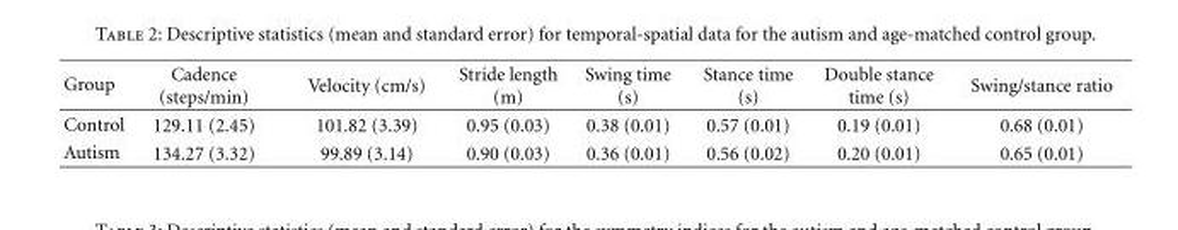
<table><thead><tr><td>Group</td><td>Cadence (steps/min)</td><td>Velocity (cm/s)</td><td>Stride length (m)</td><td>Swing time (s)</td><td>Stance time (s)</td><td>Double stance time (s)</td><td>Swing/stance ratio</td></tr></thead><tbody><tr><td>Control</td><td>129.11 (2.45)</td><td>101.82 (3.39)</td><td>0.95 (0.03)</td><td>0.38 (0.01)</td><td>0.57 (0.01)</td><td>0.19 (0.01)</td><td>0.68 (0.01)</td></tr><tr><td>Autism</td><td>134.27 (3.32)</td><td>99.89 (3.14)</td><td>0.90 (0.03)</td><td>0.36 (0.01)</td><td>0.56 (0.02)</td><td>0.20 (0.01)</td><td>0.65 (0.01)</td></tr></tbody></table>